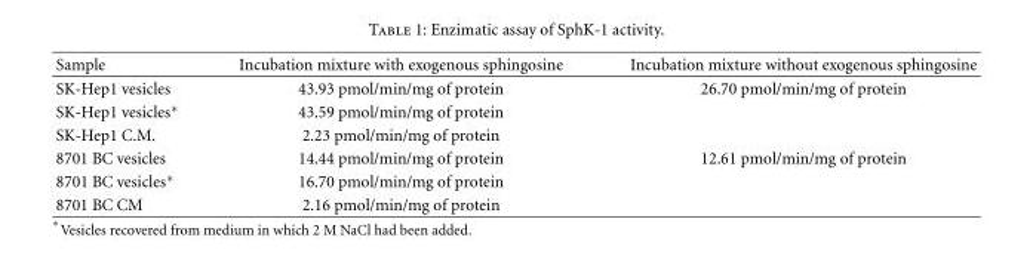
<table><thead><tr><td>Sample</td><td>Incubation mixture with exogenous sphingosine</td><td>Incubation mixture without exogenous sphingosine</td></tr></thead><tbody><tr><td>SK-Hep1 vesicles</td><td>43.93 pmol/min/mg of protein</td><td>26.70 pmol/min/mg of protein</td></tr><tr><td>SK-Hep1 vesicles∗</td><td>43.59 pmol/min/mg of protein</td><td></td></tr><tr><td>SK-Hep1 C.M.</td><td>2.23 pmol/min/mg of protein</td><td></td></tr><tr><td>8701 BC vesicles</td><td>14.44 pmol/min/mg of protein</td><td>12.61 pmol/min/mg of protein</td></tr><tr><td>8701 BC vesicles∗</td><td>16.70 pmol/min/mg of protein</td><td></td></tr><tr><td>8701 BC CM</td><td>2.16 pmol/min/mg of protein</td><td></td></tr></tbody></table>